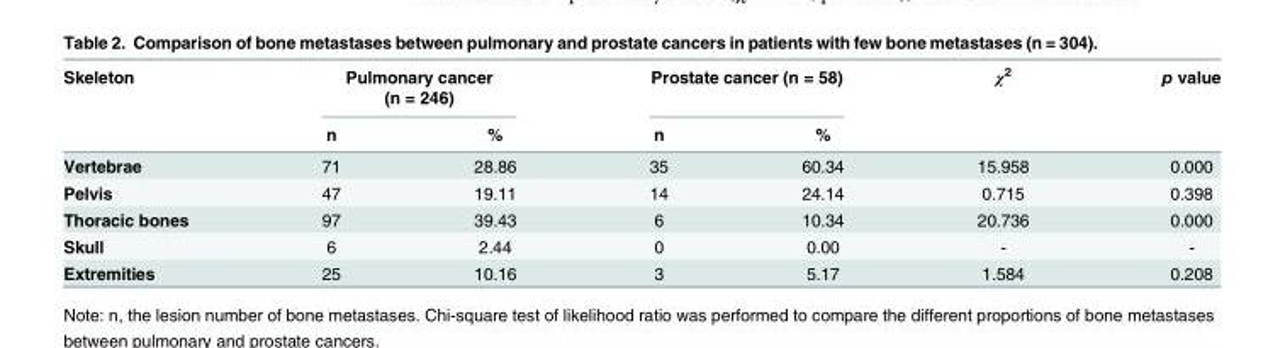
<table><thead><tr><td rowspan="2">Skeleton</td><td colspan="2">Pulmonary cancer (n = 246)</td><td colspan="2">Prostate cancer (n = 58)</td><td rowspan="2">χ<sup>2</sup></td><td rowspan="2">p value</td></tr><tr><td>n</td><td>%</td><td>n</td><td>%</td></tr></thead><tbody><tr><td>Vertebrae</td><td>71</td><td>28.86</td><td>35</td><td>60.34</td><td>15.958</td><td>0.000</td></tr><tr><td>Pelvis</td><td>47</td><td>19.11</td><td>14</td><td>24.14</td><td>0.715</td><td>0.398</td></tr><tr><td>Thoracic bones</td><td>97</td><td>39.43</td><td>6</td><td>10.34</td><td>20.736</td><td>0.000</td></tr><tr><td>Skull</td><td>6</td><td>2.44</td><td>0</td><td>0.00</td><td>-</td><td>-</td></tr><tr><td>Extremities</td><td>25</td><td>10.16</td><td>3</td><td>5.17</td><td>1.584</td><td>0.208</td></tr></tbody></table>